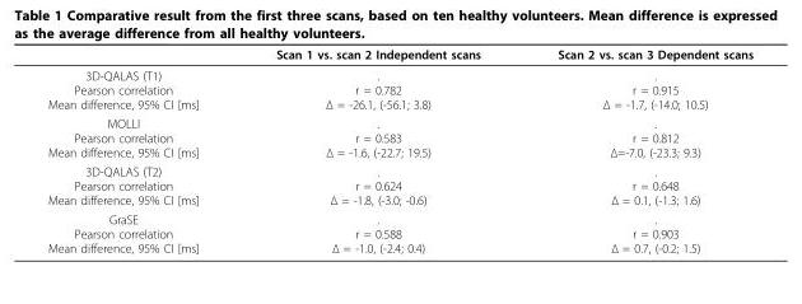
<table><thead><tr><td></td><td>Scan 1 vs. scan 2 Independent scans</td><td>Scan 2 vs. scan 3 Dependent scans</td></tr></thead><tbody><tr><td>3D-QALAS (T1) Pearson correlation Mean difference, 95% CI [ms]</td><td>. r = 0.782 Δ = -26.1, (-56.1; 3.8)</td><td>. r = 0.915 Δ = -1.7, (-14.0; 10.5)</td></tr><tr><td>MOLLI Pearson correlation Mean difference, 95% CI [ms]</td><td>. r = 0.583 Δ = -1.6, (-22.7; 19.5)</td><td>. r = 0.812 Δ=-7.0, (-23.3; 9.3)</td></tr><tr><td>3D-QALAS (T2) Pearson correlation Mean difference, 95% CI [ms]</td><td>. r = 0.624 Δ = -1.8, (-3.0; -0.6)</td><td>. r = 0.648 Δ = 0.1, (-1.3; 1.6)</td></tr><tr><td>GraSE Pearson correlation Mean difference, 95% CI [ms]</td><td>. r = 0.588 Δ = -1.0, (-2.4; 0.4)</td><td>. r = 0.903 Δ = 0.7, (-0.2; 1.5)</td></tr></tbody></table>